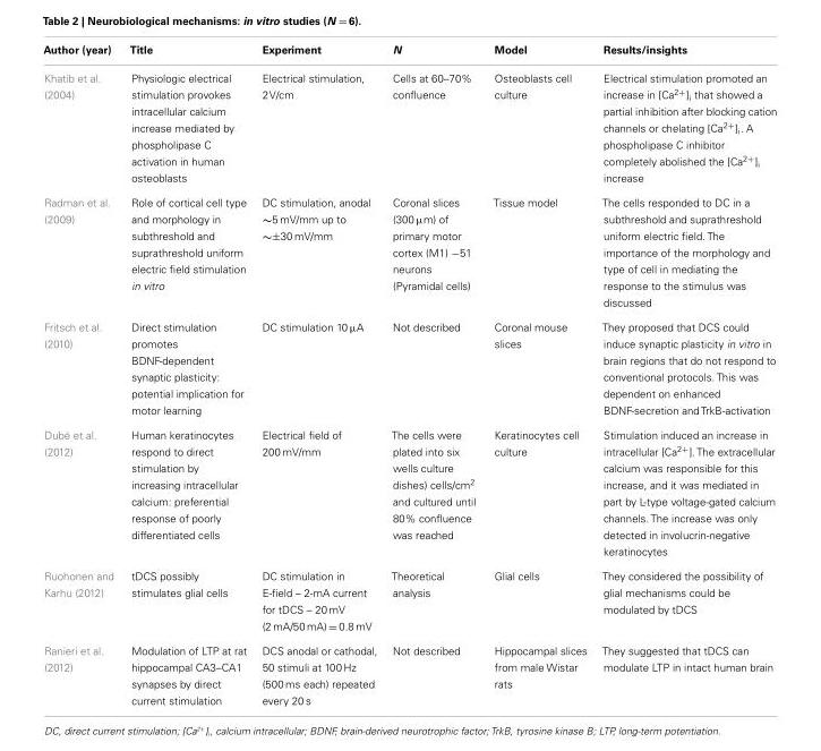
<table><thead><tr><td>Author (year)</td><td>Title</td><td>Experiment</td><td>N</td><td>Model</td><td>Results/insights</td></tr></thead><tbody><tr><td>Khatib et al. (2004)</td><td>Physiologic electrical stimulation provokes intracellular calcium increase mediated by phospholipase C activation in human osteoblasts</td><td>Electrical stimulation, 2V/cm</td><td>Cells at 60–70% confluence</td><td>Osteoblasts cell culture</td><td>Electrical stimulation promoted an increase in [Ca<sup>2+</sup>]<sub>i</sub> that showed a partial inhibition after blocking cation channels or chelating [Ca<sup>2+</sup>]<sub>i</sub>. A phospholipase C inhibitor completely abolished the [Ca<sup>2+</sup>]<sub>i</sub> increase</td></tr><tr><td>Radman et al. (2009)</td><td>Role of cortical cell type and morphology in subthreshold and suprathreshold uniform electric field stimulation in vitro</td><td>DC stimulation, anodal ∼5 mV/mm up to ∼±30 mV/mm</td><td>Coronal slices (300 µm) of primary motor cortex (M1) −51 neurons (Pyramidal cells)</td><td>Tissue model</td><td>The cells responded to DC in a subthreshold and suprathreshold uniform electric field. The importance of the morphology and type of cell in mediating the response to the stimulus was discussed</td></tr><tr><td>Fritsch et al. (2010)</td><td>Direct stimulation promotes BDNF-dependent synaptic plasticity: potential implication for motor learning</td><td>DC stimulation 10 µA</td><td>Not described</td><td>Coronal mouse slices</td><td>They proposed that DCS could induce synaptic plasticity in vitro in brain regions that do not respond to conventional protocols. This was dependent on enhanced BDNF-secretion and TrkB-activation</td></tr><tr><td>Dubé et al. (2012)</td><td>Human keratinocytes respond to direct stimulation by increasing intracellular calcium: preferential response of poorly differentiated cells</td><td>Electrical field of 200 mV/mm</td><td>The cells were plated into six wells culture dishes) cells/cm<sup>2</sup> and cultured until 80% confluence was reached</td><td>Keratinocytes cell culture</td><td>Stimulation induced an increase in intracellular [Ca<sup>2+</sup>]. The extracellular calcium was responsible for this increase, and it was mediated in part by L-type voltage-gated calcium channels. The increase was only detected in involucrin-negative keratinocytes</td></tr><tr><td>Ruohonen and Karhu (2012)</td><td>tDCS possibly stimulates glial cells</td><td>DC stimulation in E-field – 2-mA current for tDCS – 20 mV (2 mA/50 mA) = 0.8 mV</td><td>Theoretical analysis</td><td>Glial cells</td><td>They considered the possibility of glial mechanisms could be modulated by tDCS</td></tr><tr><td>Ranieri et al. (2012)</td><td>Modulation of LTP at rat hippocampal CA3–CA1 synapses by direct current stimulation</td><td>DCS anodal or cathodal, 50 stimuli at 100 Hz (500 ms each) repeated every 20 s</td><td>Not described</td><td>Hippocampal slices from male Wistar rats</td><td>They suggested that tDCS can modulate LTP in intact human brain</td></tr></tbody></table>